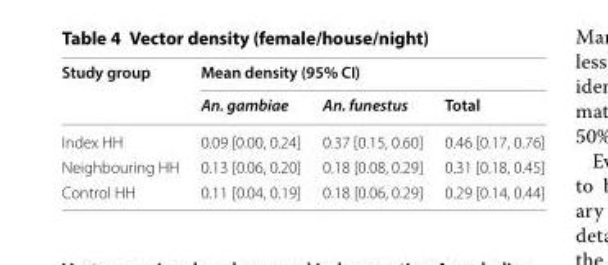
<table><thead><tr><td rowspan="2">Study group</td><td colspan="3">Mean density (95% CI)</td></tr><tr><td>An. gambiae</td><td>An. funestus</td><td>Total</td></tr></thead><tbody><tr><td>Index HH</td><td>0.09 [0.00, 0.24]</td><td>0.37 [0.15, 0.60]</td><td>0.46 [0.17, 0.76]</td></tr><tr><td>Neighbouring HH</td><td>0.13 [0.06, 0.20]</td><td>0.18 [0.08, 0.29]</td><td>0.31 [0.18, 0.45]</td></tr><tr><td>Control HH</td><td>0.11 [0.04, 0.19]</td><td>0.18 [0.06, 0.29]</td><td>0.29 [0.14, 0.44]</td></tr></tbody></table>